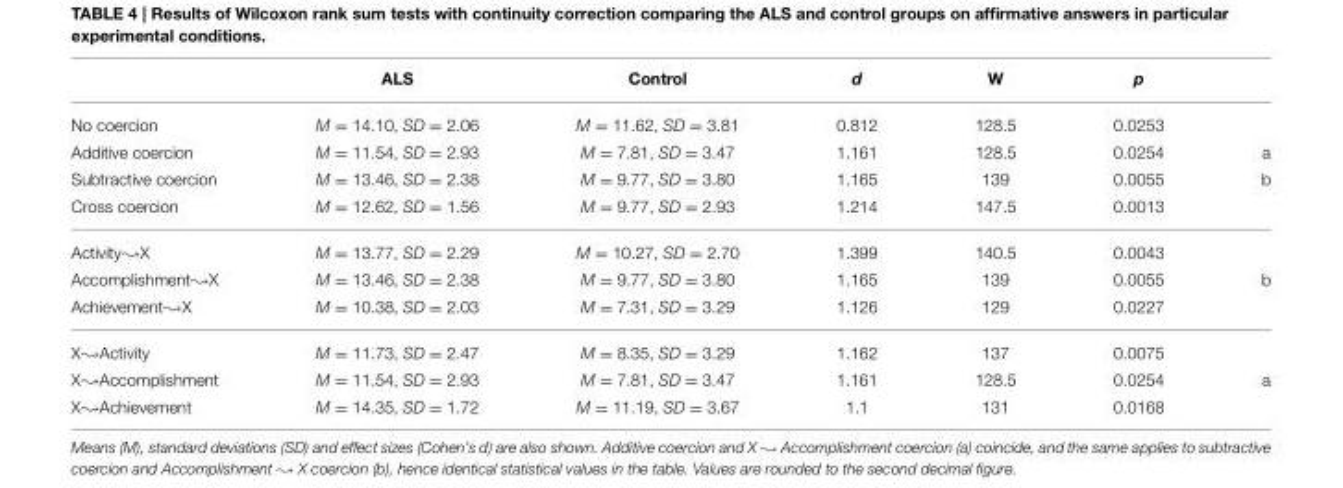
<table><thead><tr><td></td><td>ALS</td><td>Control</td><td>d</td><td>W</td><td>p</td><td></td></tr></thead><tbody><tr><td>No coercion</td><td>M = 14.10, SD = 2.06</td><td>M = 11.62, SD = 3.81</td><td>0.812</td><td>128.5</td><td>0.0253</td><td></td></tr><tr><td>Additive coercion</td><td>M = 11.54, SD = 2.93</td><td>M = 7.81, SD = 3.47</td><td>1.161</td><td>128.5</td><td>0.0254</td><td>a</td></tr><tr><td>Subtractive coercion</td><td>M = 13.46, SD = 2.38</td><td>M = 9.77, SD = 3.80</td><td>1.165</td><td>139</td><td>0.0055</td><td>b</td></tr><tr><td>Cross coercion</td><td>M = 12.62, SD = 1.56</td><td>M = 9.77, SD = 2.93</td><td>1.214</td><td>147.5</td><td>0.0013</td><td></td></tr><tr><td>Activity↝X</td><td>M = 13.77, SD = 2.29</td><td>M = 10.27, SD = 2.70</td><td>1.399</td><td>140.5</td><td>0.0043</td><td></td></tr><tr><td>Accomplishment↝X</td><td>M = 13.46, SD = 2.38</td><td>M = 9.77, SD = 3.80</td><td>1.165</td><td>139</td><td>0.0055</td><td>b</td></tr><tr><td>Achievement↝X</td><td>M = 10.38, SD = 2.03</td><td>M = 7.31, SD = 3.29</td><td>1.126</td><td>129</td><td>0.0227</td><td></td></tr><tr><td>X↝Activity</td><td>M = 11.73, SD = 2.47</td><td>M = 8.35, SD = 3.29</td><td>1.162</td><td>137</td><td>0.0075</td><td></td></tr><tr><td>X↝Accomplishment</td><td>M = 11.54, SD = 2.93</td><td>M = 7.81, SD = 3.47</td><td>1.161</td><td>128.5</td><td>0.0254</td><td>a</td></tr><tr><td>X↝Achievement</td><td>M = 14.35, SD = 1.72</td><td>M = 11.19, SD = 3.67</td><td>1.1</td><td>131</td><td>0.0168</td><td></td></tr></tbody></table>